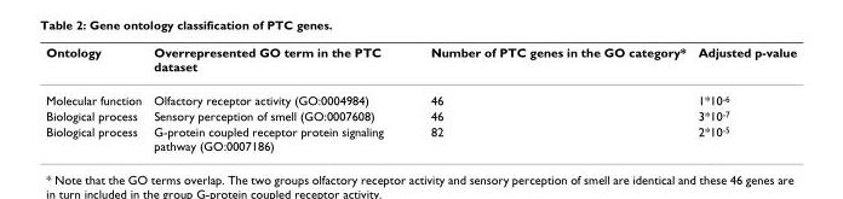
<table><thead><tr><td>Ontology</td><td>Overrepresented GO term in the PTC dataset</td><td>Number of PTC genes in the GO category*</td><td>Adjusted p-value</td></tr></thead><tbody><tr><td>Molecular function</td><td>Olfactory receptor activity (GO:0004984)</td><td>46</td><td>1*10<sup>-6</sup></td></tr><tr><td>Biological process</td><td>Sensory perception of smell (GO:0007608)</td><td>46</td><td>3*10<sup>-7</sup></td></tr><tr><td>Biological process</td><td>G-protein coupled receptor protein signaling pathway (GO:0007186)</td><td>82</td><td>2*10<sup>-5</sup></td></tr></tbody></table>